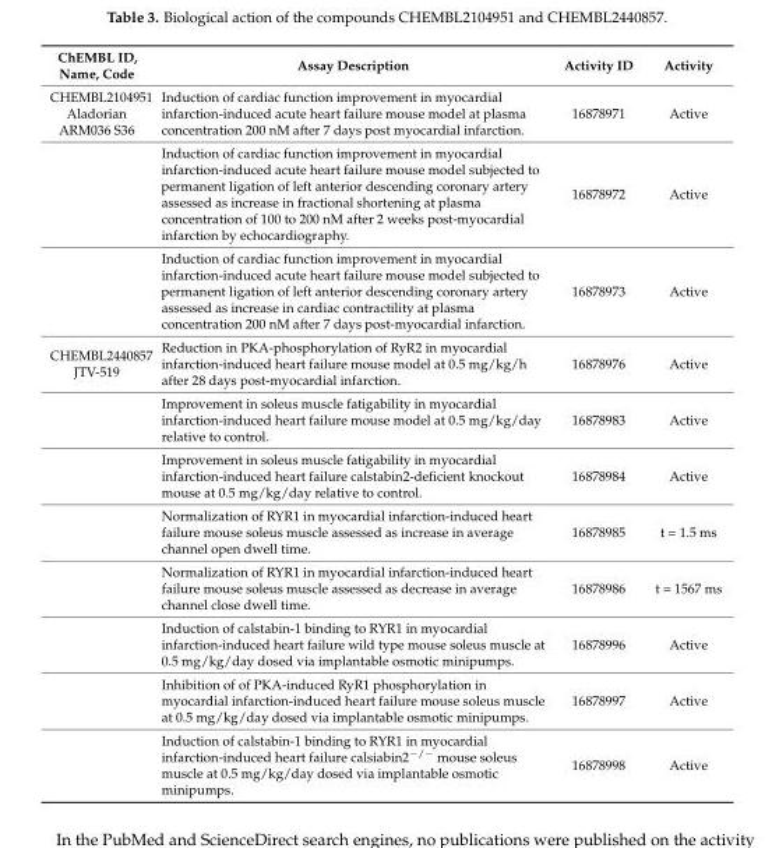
<table><thead><tr><td>ChEMBL ID, Name, Code</td><td>Assay Description</td><td>Activity ID</td><td>Activity</td></tr></thead><tbody><tr><td rowspan="3">CHEMBL2104951 Aladorian ARM036 S36</td><td>Induction of cardiac function improvement in myocardial infarction-induced acute heart failure mouse model at plasma concentration 200 nM after 7 days post myocardial infarction.</td><td>16878971</td><td>Active</td></tr><tr><td>Induction of cardiac function improvement in myocardial infarction-induced acute heart failure mouse model subjected to permanent ligation of left anterior descending coronary artery assessed as increase in fractional shortening at plasma concentration of 100 to 200 nM after 2 weeks post-myocardial infarction by echocardiography.</td><td>16878972</td><td>Active</td></tr><tr><td>Induction of cardiac function improvement in myocardial infarction-induced acute heart failure mouse model subjected to permanent ligation of left anterior descending coronary artery assessed as increase in cardiac contractility at plasma concentration 200 nM after 7 days post-myocardial infarction.</td><td>16878973</td><td>Active</td></tr><tr><td rowspan="8">CHEMBL2440857 JTV-519</td><td>Reduction in PKA-phosphorylation of RyR2 in myocardial infarction-induced heart failure mouse model at 0.5 mg/kg/h after 28 days post-myocardial infarction.</td><td>16878976</td><td>Active</td></tr><tr><td>Improvement in soleus muscle fatigability in myocardial infarction-induced heart failure mouse model at 0.5 mg/kg/day relative to control.</td><td>16878983</td><td>Active</td></tr><tr><td>Improvement in soleus muscle fatigability in myocardial infarction-induced heart failure calstabin2-deficient knockout mouse at 0.5 mg/kg/day relative to control.</td><td>16878984</td><td>Active</td></tr><tr><td>Normalization of RYR1 in myocardial infarction-induced heart failure mouse soleus muscle assessed as increase in average channel open dwell time.</td><td>16878985</td><td>t = 1.5 ms</td></tr><tr><td>Normalization of RYR1 in myocardial infarction-induced heart failure mouse soleus muscle assessed as decrease in average channel close dwell time.</td><td>16878986</td><td>t = 1567 ms</td></tr><tr><td>Induction of calstabin-1 binding to RYR1 in myocardial infarction-induced heart failure wild type mouse soleus muscle at 0.5 mg/kg/day dosed via implantable osmotic minipumps.</td><td>16878996</td><td>Active</td></tr><tr><td>Inhibition of of PKA-induced RyR1 phosphorylation in myocardial infarction-induced heart failure mouse soleus muscle at 0.5 mg/kg/day dosed via implantable osmotic minipumps.</td><td>16878997</td><td>Active</td></tr><tr><td>Induction of calstabin-1 binding to RYR1 in myocardial infarction-induced heart failure calsiabin2<sup>−/−</sup> mouse soleus muscle at 0.5 mg/kg/day dosed via implantable osmotic minipumps.</td><td>16878998</td><td>Active</td></tr></tbody></table>